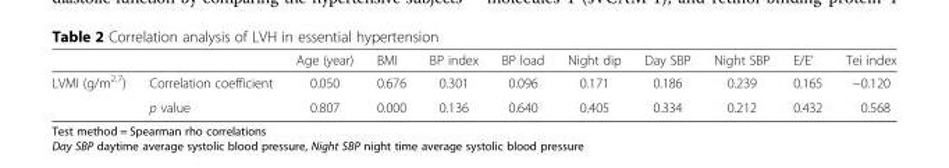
<table><thead><tr><td></td><td></td><td>Age (year)</td><td>BMI</td><td>BP index</td><td>BP load</td><td>Night dip</td><td>Day SBP</td><td>Night SBP</td><td>E/E’</td><td>Tei index</td></tr></thead><tbody><tr><td rowspan="2">LVMI (g/m<sup>2.7</sup>)</td><td>Correlation coefficient</td><td>0.050</td><td>0.676</td><td>0.301</td><td>0.096</td><td>0.171</td><td>0.186</td><td>0.239</td><td>0.165</td><td>−0.120</td></tr><tr><td>p value</td><td>0.807</td><td>0.000</td><td>0.136</td><td>0.640</td><td>0.405</td><td>0.334</td><td>0.212</td><td>0.432</td><td>0.568</td></tr></tbody></table>